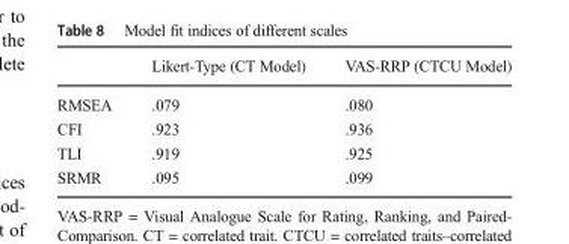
<table><thead><tr><td></td><td>Likert-Type (CT Model)</td><td>VAS-RRP (CTCU Model)</td></tr></thead><tbody><tr><td>RMSEA</td><td>.079</td><td>.080</td></tr><tr><td>CFI</td><td>.923</td><td>.936</td></tr><tr><td>TLI</td><td>.919</td><td>.925</td></tr><tr><td>SRMR</td><td>.095</td><td>.099</td></tr></tbody></table>